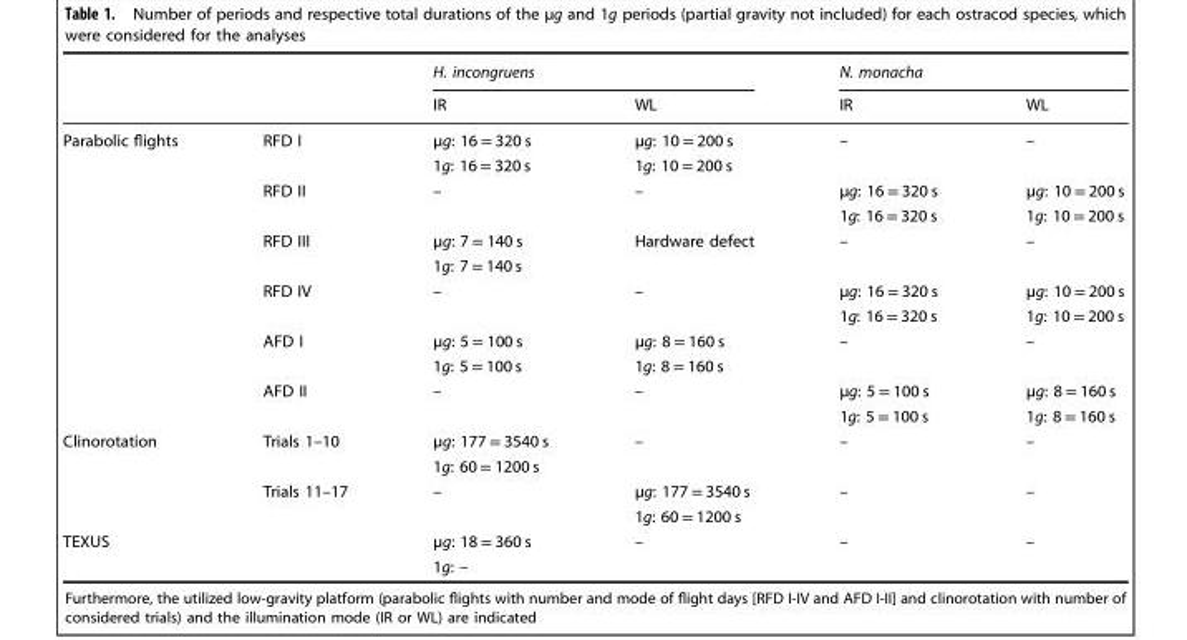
<table><thead><tr><td rowspan="2"></td><td rowspan="2"></td><td colspan="2">H. incongruens</td><td colspan="2">N. monacha</td></tr><tr><td>IR</td><td>WL</td><td>IR</td><td>WL</td></tr></thead><tbody><tr><td rowspan="12">Parabolic flights</td><td>RFD I</td><td>µg: 16 = 320 s</td><td>µg: 10 = 200 s</td><td>–</td><td>–</td></tr><tr><td></td><td>1g: 16 = 320 s</td><td>1g: 10 = 200 s</td><td></td><td></td></tr><tr><td>RFD II</td><td>–</td><td>–</td><td>µg: 16 = 320 s</td><td>µg: 10 = 200 s</td></tr><tr><td></td><td></td><td></td><td>1g: 16 = 320 s</td><td>1g: 10 = 200 s</td></tr><tr><td>RFD III</td><td>µg: 7 = 140 s</td><td>Hardware defect</td><td>–</td><td>–</td></tr><tr><td></td><td>1g: 7 = 140 s</td><td></td><td></td><td></td></tr><tr><td>RFD IV</td><td>–</td><td>–</td><td>µg: 16 = 320 s</td><td>µg: 10 = 200 s</td></tr><tr><td></td><td></td><td></td><td>1g: 16 = 320 s</td><td>1g: 10 = 200 s</td></tr><tr><td>AFD I</td><td>µg: 5 = 100 s</td><td>µg: 8 = 160 s</td><td>–</td><td>–</td></tr><tr><td></td><td>1g: 5 = 100 s</td><td>1g: 8 = 160 s</td><td></td><td></td></tr><tr><td>AFD II</td><td>–</td><td>–</td><td>µg: 5 = 100 s</td><td>µg: 8 = 160 s</td></tr><tr><td></td><td></td><td></td><td>1g: 5 = 100 s</td><td>1g: 8 = 160 s</td></tr><tr><td rowspan="4">Clinorotation</td><td>Trials 1–10</td><td>µg: 177 = 3540 s</td><td>–</td><td>–</td><td>–</td></tr><tr><td></td><td>1g: 60 = 1200 s</td><td></td><td></td><td></td></tr><tr><td>Trials 11–17</td><td>–</td><td>µg: 177 = 3540 s</td><td>–</td><td>–</td></tr><tr><td></td><td></td><td>1g: 60 = 1200 s</td><td></td><td></td></tr><tr><td rowspan="2">TEXUS</td><td></td><td>µg: 18 = 360 s</td><td>–</td><td>–</td><td>–</td></tr><tr><td></td><td>1g: –</td><td></td><td></td><td></td></tr></tbody></table>